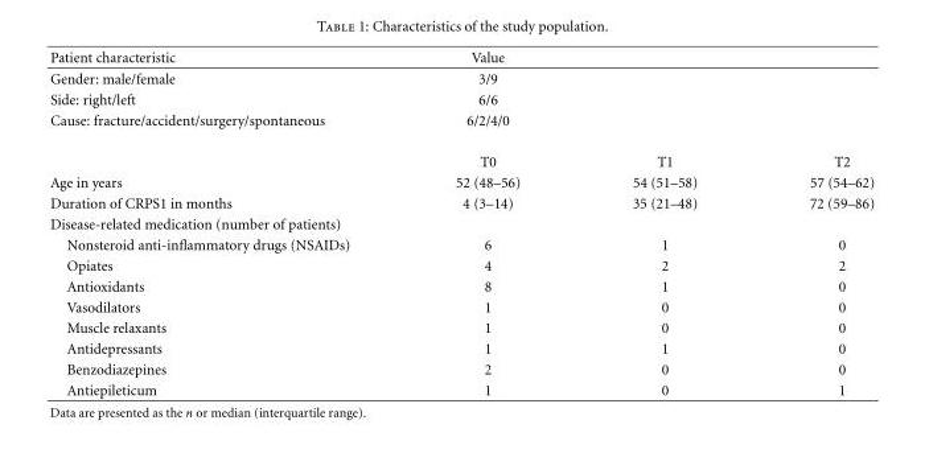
<table><thead><tr><td>Patient characteristic</td><td>Value</td><td></td><td></td></tr></thead><tbody><tr><td>Gender: male/female</td><td>3/9</td><td></td><td></td></tr><tr><td>Side: right/left</td><td>6/6</td><td></td><td></td></tr><tr><td rowspan="2">Cause: fracture/accident/surgery/spontaneous</td><td>6/2/4/0</td><td></td><td></td></tr><tr><td>T0</td><td>T1</td><td>T2</td></tr><tr><td>Age in years</td><td>52 (48–56)</td><td>54 (51–58)</td><td>57 (54–62)</td></tr><tr><td>Duration of CRPS1 in months</td><td>4 (3–14)</td><td>35 (21–48)</td><td>72 (59–86)</td></tr><tr><td colspan="4">Disease-related medication (number of patients)</td></tr><tr><td>Nonsteroid anti-inflammatory drugs (NSAIDs)</td><td>6</td><td>1</td><td>0</td></tr><tr><td>Opiates</td><td>4</td><td>2</td><td>2</td></tr><tr><td>Antioxidants</td><td>8</td><td>1</td><td>0</td></tr><tr><td>Vasodilators</td><td>1</td><td>0</td><td>0</td></tr><tr><td>Muscle relaxants</td><td>1</td><td>0</td><td>0</td></tr><tr><td>Antidepressants</td><td>1</td><td>1</td><td>0</td></tr><tr><td>Benzodiazepines</td><td>2</td><td>0</td><td>0</td></tr><tr><td>Antiepileticum</td><td>1</td><td>0</td><td>1</td></tr></tbody></table>